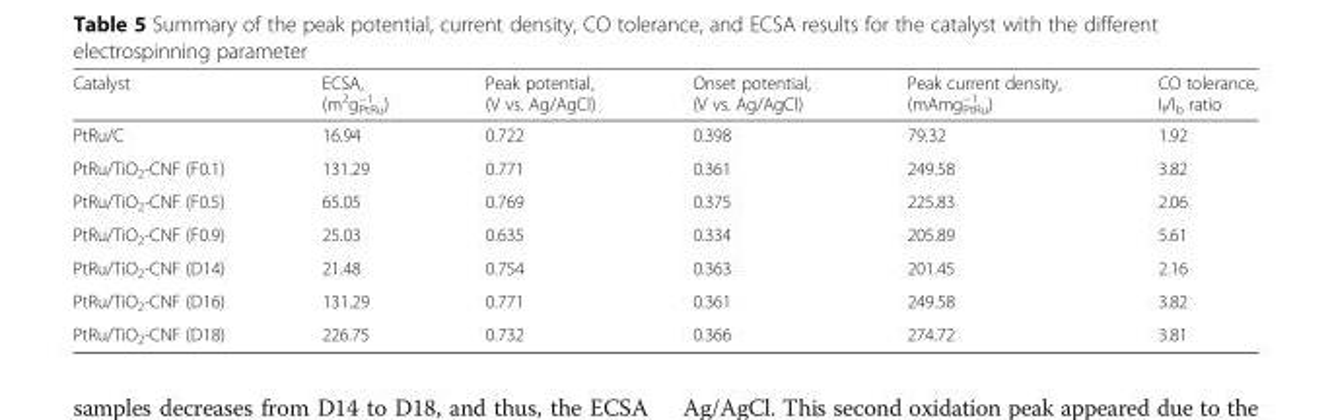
<table><thead><tr><td>Catalyst</td><td>ECSA, (m<sup>2</sup>g<sup>−1</sup> <sub>PtRu</sub>)</td><td>Peak potential, (V vs. Ag/AgCl)</td><td>Onset potential, (V vs. Ag/AgCl)</td><td>Peak current density, (mAmg<sup>−1</sup> <sub>PtRu</sub>)</td><td>CO tolerance, I<sub>f</sub>/I<sub>b</sub> ratio</td></tr></thead><tbody><tr><td>PtRu/C</td><td>16.94</td><td>0.722</td><td>0.398</td><td>79.32</td><td>1.92</td></tr><tr><td>PtRu/TiO<sub>2</sub>-CNF (F0.1)</td><td>131.29</td><td>0.771</td><td>0.361</td><td>249.58</td><td>3.82</td></tr><tr><td>PtRu/TiO<sub>2</sub>-CNF (F0.5)</td><td>65.05</td><td>0.769</td><td>0.375</td><td>225.83</td><td>2.06</td></tr><tr><td>PtRu/TiO<sub>2</sub>-CNF (F0.9)</td><td>25.03</td><td>0.635</td><td>0.334</td><td>205.89</td><td>5.61</td></tr><tr><td>PtRu/TiO<sub>2</sub>-CNF (D14)</td><td>21.48</td><td>0.754</td><td>0.363</td><td>201.45</td><td>2.16</td></tr><tr><td>PtRu/TiO<sub>2</sub>-CNF (D16)</td><td>131.29</td><td>0.771</td><td>0.361</td><td>249.58</td><td>3.82</td></tr><tr><td>PtRu/TiO<sub>2</sub>-CNF (D18)</td><td>226.75</td><td>0.732</td><td>0.366</td><td>274.72</td><td>3.81</td></tr></tbody></table>